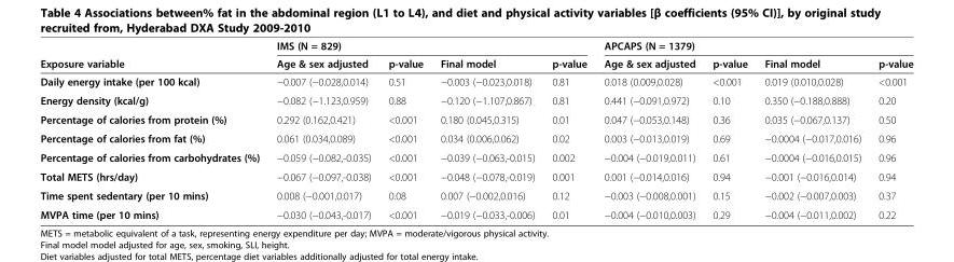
<table><thead><tr><td rowspan="2">Exposure variable</td><td colspan="4">IMS (N = 829)</td><td colspan="4">APCAPS (N = 1379)</td></tr><tr><td>Age &amp; sex adjusted</td><td>p-value</td><td>Final model</td><td>p-value</td><td>Age &amp; sex adjusted</td><td>p-value</td><td>Final model</td><td>p-value</td></tr></thead><tbody><tr><td>Daily energy intake (per 100 kcal)</td><td>−0.007 (−0.028,0.014)</td><td>0.51</td><td>−0.003 (−0.023,0.018)</td><td>0.81</td><td>0.018 (0.009,0.028)</td><td>&lt;0.001</td><td>0.019 (0.010,0.028)</td><td>&lt;0.001</td></tr><tr><td>Energy density (kcal/g)</td><td>−0.082 (−1.123,0.959)</td><td>0.88</td><td>−0.120 (−1.107,0.867)</td><td>0.81</td><td>0.441 (−0.091,0.972)</td><td>0.10</td><td>0.350 (−0.188,0.888)</td><td>0.20</td></tr><tr><td>Percentage of calories from protein (%)</td><td>0.292 (0.162,0.421)</td><td>&lt;0.001</td><td>0.180 (0.045,0.315)</td><td>0.01</td><td>0.047 (−0.053,0.148)</td><td>0.36</td><td>0.035 (−0.067,0.137)</td><td>0.50</td></tr><tr><td>Percentage of calories from fat (%)</td><td>0.061 (0.034,0.089)</td><td>&lt;0.001</td><td>0.034 (0.006,0.062)</td><td>0.02</td><td>0.003 (−0.013,0.019)</td><td>0.69</td><td>−0.0004 (−0.017,0.016)</td><td>0.96</td></tr><tr><td>Percentage of calories from carbohydrates (%)</td><td>−0.059 (−0.082,-0.035)</td><td>&lt;0.001</td><td>−0.039 (−0.063,-0.015)</td><td>0.002</td><td>−0.004 (−0.019,0.011)</td><td>0.61</td><td>−0.0004 (−0.016,0.015)</td><td>0.96</td></tr><tr><td>Total METS (hrs/day)</td><td>−0.067 (−0.097,-0.038)</td><td>&lt;0.001</td><td>−0.048 (−0.078,-0.019)</td><td>0.001</td><td>0.001 (−0.014,0.016)</td><td>0.94</td><td>−0.001 (−0.016,0.014)</td><td>0.94</td></tr><tr><td>Time spent sedentary (per 10 mins)</td><td>0.008 (−0.001,0.017)</td><td>0.08</td><td>0.007 (−0.002,0.016)</td><td>0.12</td><td>−0.003 (−0.008,0.001)</td><td>0.15</td><td>−0.002 (−0.007,0.003)</td><td>0.37</td></tr><tr><td>MVPA time (per 10 mins)</td><td>−0.030 (−0.043,-0.017)</td><td>&lt;0.001</td><td>−0.019 (−0.033,-0.006)</td><td>0.01</td><td>−0.004 (−0.010,0.003)</td><td>0.29</td><td>−0.004 (−0.011,0.002)</td><td>0.22</td></tr></tbody></table>